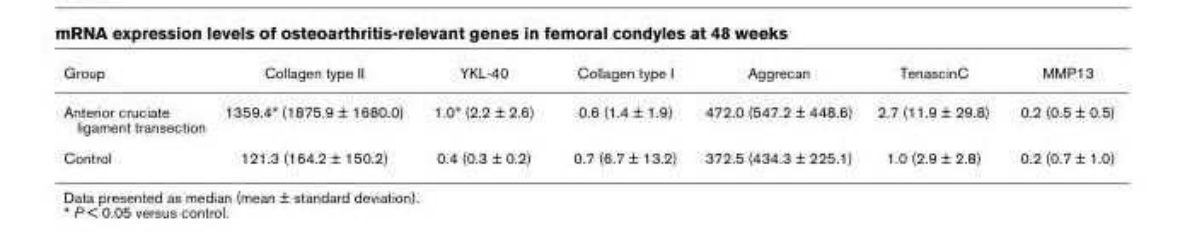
<table><thead><tr><td>Group</td><td>Collagen type II</td><td>YKL-40</td><td>Collagen type I</td><td>Aggrecan</td><td>TenascinC</td><td>MMP13</td></tr></thead><tbody><tr><td>Anterior cruciate ligament transection</td><td>1359.4* (1875.9 ± 1680.0)</td><td>1.0* (2.2 ± 2.6)</td><td>0.6 (1.4 ± 1.9)</td><td>472.0 (547.2 ± 448.6)</td><td>2.7 (11.9 ± 29.8)</td><td>0.2 (0.5 ± 0.5)</td></tr><tr><td>Control</td><td>121.3 (164.2 ± 150.2)</td><td>0.4 (0.3 ± 0.2)</td><td>0.7 (6.7 ± 13.2)</td><td>372.5 (434.3 ± 225.1)</td><td>1.0 (2.9 ± 2.8)</td><td>0.2 (0.7 ± 1.0)</td></tr></tbody></table>